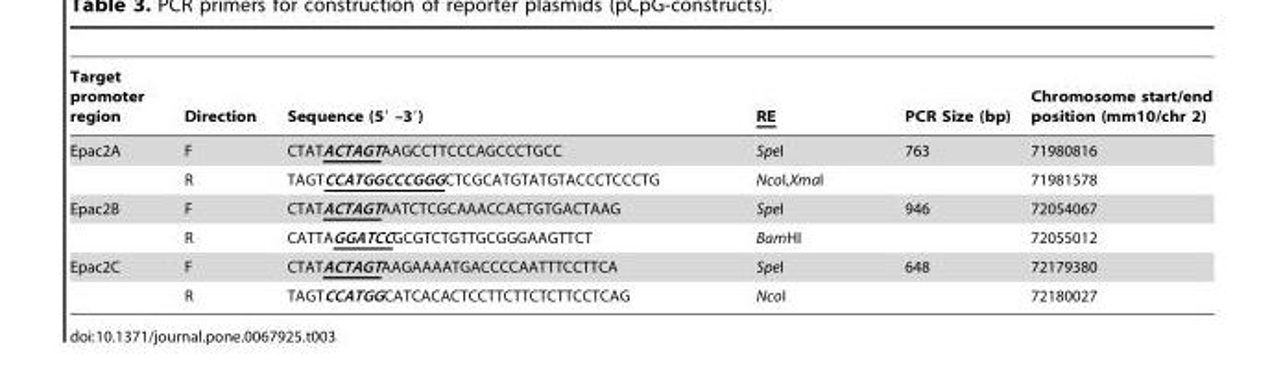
<table><thead><tr><td>Target promoter region</td><td>Direction</td><td>Sequence (5′ –3′)</td><td>RE</td><td>PCR Size (bp)</td><td>Chromosome start/end position (mm10/chr 2)</td></tr></thead><tbody><tr><td rowspan="2">Epac2A</td><td>F</td><td>CTATACTAGTAAGCCTTCCCAGCCCTGCC</td><td>SpeI</td><td>763</td><td>71980816</td></tr><tr><td>R</td><td>TAGTCCATGGCCCGGGCTCGCATGTATGTACCCTCCCTG</td><td>NcoI,XmaI</td><td></td><td>71981578</td></tr><tr><td rowspan="2">Epac2B</td><td>F</td><td>CTATACTAGTAATCTCGCAAACCACTGTGACTAAG</td><td>SpeI</td><td>946</td><td>72054067</td></tr><tr><td>R</td><td>CATTAGGATCCGCGTCTGTTGCGGGAAGTTCT</td><td>BamHI</td><td></td><td>72055012</td></tr><tr><td rowspan="2">Epac2C</td><td>F</td><td>CTATACTAGTAAGAAAATGACCCCAATTTCCTTCA</td><td>SpeI</td><td>648</td><td>72179380</td></tr><tr><td>R</td><td>TAGTCCATGGCATCACACTCCTTCTTCTCTTCCTCAG</td><td>NcoI</td><td></td><td>72180027</td></tr></tbody></table>